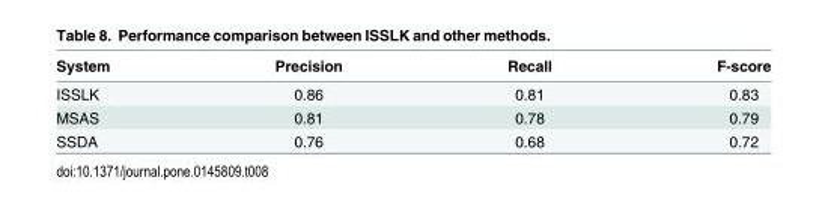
<table><thead><tr><td>System</td><td>Precision</td><td>Recall</td><td>F-score</td></tr></thead><tbody><tr><td>ISSLK</td><td>0.86</td><td>0.81</td><td>0.83</td></tr><tr><td>MSAS</td><td>0.81</td><td>0.78</td><td>0.79</td></tr><tr><td>SSDA</td><td>0.76</td><td>0.68</td><td>0.72</td></tr></tbody></table>